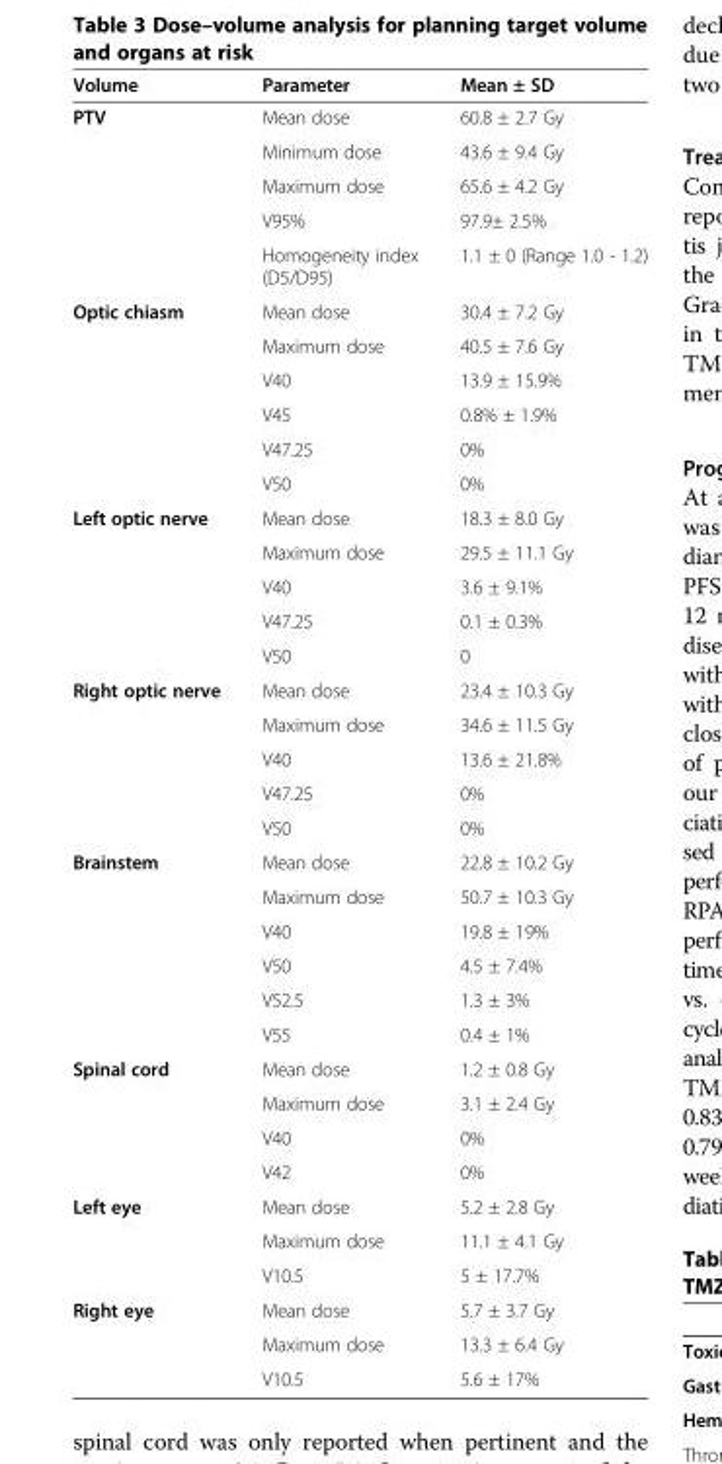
<table><thead><tr><td>Volume</td><td>Parameter</td><td>Mean ± SD</td></tr></thead><tbody><tr><td rowspan="5">PTV</td><td>Mean dose</td><td>60.8 ± 2.7 Gy</td></tr><tr><td>Minimum dose</td><td>43.6 ± 9.4 Gy</td></tr><tr><td>Maximum dose</td><td>65.6 ± 4.2 Gy</td></tr><tr><td>V95%</td><td>97.9± 2.5%</td></tr><tr><td>Homogeneity index (D5/D95)</td><td>1.1 ± 0 (Range 1.0 - 1.2)</td></tr><tr><td rowspan="6">Optic chiasm</td><td>Mean dose</td><td>30.4 ± 7.2 Gy</td></tr><tr><td>Maximum dose</td><td>40.5 ± 7.6 Gy</td></tr><tr><td>V40</td><td>13.9 ± 15.9%</td></tr><tr><td>V45</td><td>0.8% ± 1.9%</td></tr><tr><td>V47.25</td><td>0%</td></tr><tr><td>V50</td><td>0%</td></tr><tr><td rowspan="5">Left optic nerve</td><td>Mean dose</td><td>18.3 ± 8.0 Gy</td></tr><tr><td>Maximum dose</td><td>29.5 ± 11.1 Gy</td></tr><tr><td>V40</td><td>3.6 ± 9.1%</td></tr><tr><td>V47.25</td><td>0.1 ± 0.3%</td></tr><tr><td>V50</td><td>0</td></tr><tr><td rowspan="5">Right optic nerve</td><td>Mean dose</td><td>23.4 ± 10.3 Gy</td></tr><tr><td>Maximum dose</td><td>34.6 ± 11.5 Gy</td></tr><tr><td>V40</td><td>13.6 ± 21.8%</td></tr><tr><td>V47.25</td><td>0%</td></tr><tr><td>V50</td><td>0%</td></tr><tr><td rowspan="6">Brainstem</td><td>Mean dose</td><td>22.8 ± 10.2 Gy</td></tr><tr><td>Maximum dose</td><td>50.7 ± 10.3 Gy</td></tr><tr><td>V40</td><td>19.8 ± 19%</td></tr><tr><td>V50</td><td>4.5 ± 7.4%</td></tr><tr><td>V52.5</td><td>1.3 ± 3%</td></tr><tr><td>V55</td><td>0.4 ± 1%</td></tr><tr><td rowspan="4">Spinal cord</td><td>Mean dose</td><td>1.2 ± 0.8 Gy</td></tr><tr><td>Maximum dose</td><td>3.1 ± 2.4 Gy</td></tr><tr><td>V40</td><td>0%</td></tr><tr><td>V42</td><td>0%</td></tr><tr><td rowspan="3">Left eye</td><td>Mean dose</td><td>5.2 ± 2.8 Gy</td></tr><tr><td>Maximum dose</td><td>11.1 ± 4.1 Gy</td></tr><tr><td>V10.5</td><td>5 ± 17.7%</td></tr><tr><td rowspan="3">Right eye</td><td>Mean dose</td><td>5.7 ± 3.7 Gy</td></tr><tr><td>Maximum dose</td><td>13.3 ± 6.4 Gy</td></tr><tr><td>V10.5</td><td>5.6 ± 17%</td></tr></tbody></table>